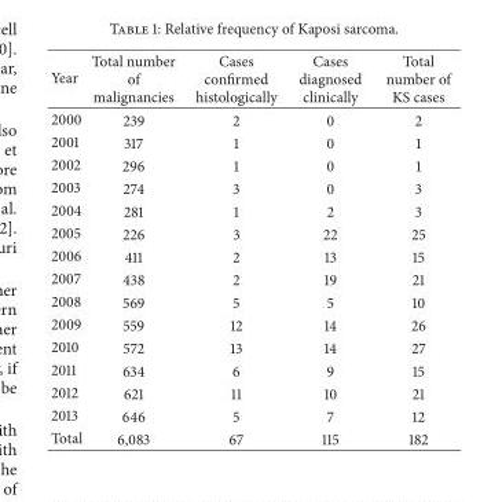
<table><thead><tr><td>Year</td><td>Total number of malignancies</td><td>Cases confirmed histologically</td><td>Cases diagnosed clinically</td><td>Total number of KS cases</td></tr></thead><tbody><tr><td>2000</td><td>239</td><td>2</td><td>0</td><td>2</td></tr><tr><td>2001</td><td>317</td><td>1</td><td>0</td><td>1</td></tr><tr><td>2002</td><td>296</td><td>1</td><td>0</td><td>1</td></tr><tr><td>2003</td><td>274</td><td>3</td><td>0</td><td>3</td></tr><tr><td>2004</td><td>281</td><td>1</td><td>2</td><td>3</td></tr><tr><td>2005</td><td>226</td><td>3</td><td>22</td><td>25</td></tr><tr><td>2006</td><td>411</td><td>2</td><td>13</td><td>15</td></tr><tr><td>2007</td><td>438</td><td>2</td><td>19</td><td>21</td></tr><tr><td>2008</td><td>569</td><td>5</td><td>5</td><td>10</td></tr><tr><td>2009</td><td>559</td><td>12</td><td>14</td><td>26</td></tr><tr><td>2010</td><td>572</td><td>13</td><td>14</td><td>27</td></tr><tr><td>2011</td><td>634</td><td>6</td><td>9</td><td>15</td></tr><tr><td>2012</td><td>621</td><td>11</td><td>10</td><td>21</td></tr><tr><td>2013</td><td>646</td><td>5</td><td>7</td><td>12</td></tr><tr><td>Total</td><td>6,083</td><td>67</td><td>115</td><td>182</td></tr></tbody></table>